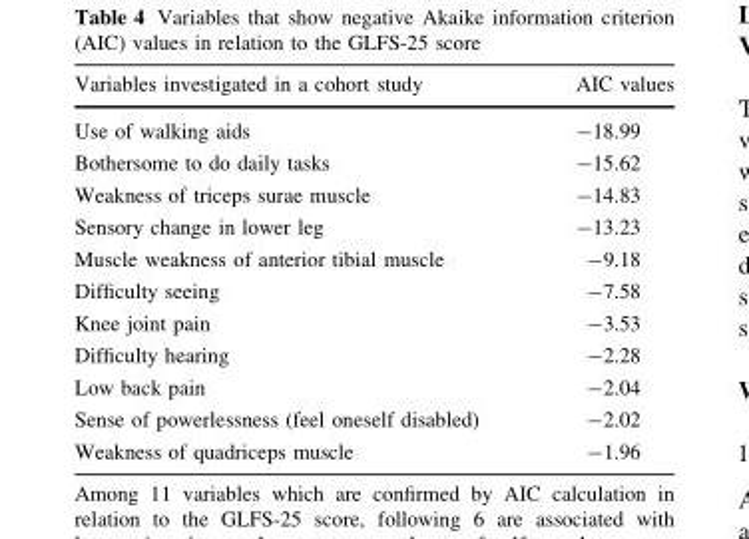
<table><thead><tr><td>Variables investigated in a cohort study</td><td>AIC values</td></tr></thead><tbody><tr><td>Use of walking aids</td><td>-18.99</td></tr><tr><td>Bothersome to do daily tasks</td><td>-15.62</td></tr><tr><td>Weakness of triceps surae muscle</td><td>-14.83</td></tr><tr><td>Sensory change in lower leg</td><td>-13.23</td></tr><tr><td>Muscle weakness of anterior tibial muscle</td><td>-9.18</td></tr><tr><td>Difficulty seeing</td><td>-7.58</td></tr><tr><td>Knee joint pain</td><td>-3.53</td></tr><tr><td>Difficulty hearing</td><td>-2.28</td></tr><tr><td>Low back pain</td><td>-2.04</td></tr><tr><td>Sense of powerlessness (feel oneself disabled)</td><td>-2.02</td></tr><tr><td>Weakness of quadriceps muscle</td><td>-1.96</td></tr></tbody></table>